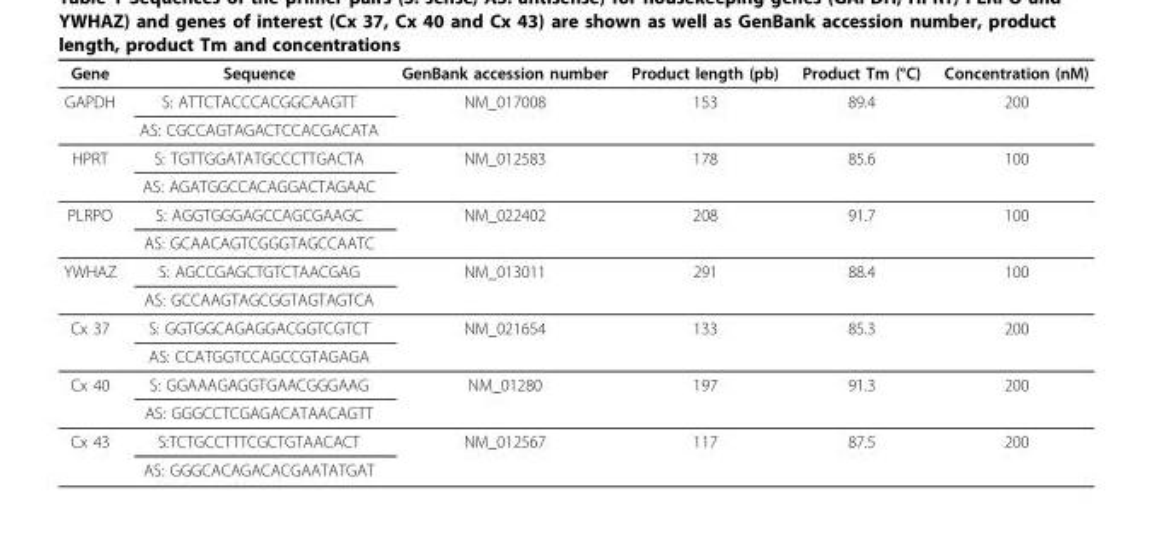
<table><thead><tr><td>Gene</td><td>Sequence</td><td>GenBank accession number</td><td>Product length (pb)</td><td>Product Tm (°C)</td><td>Concentration (nM)</td></tr></thead><tbody><tr><td rowspan="2">GAPDH</td><td>S: ATTCTACCCACGGCAAGTT</td><td>NM_017008</td><td>153</td><td>89.4</td><td>200</td></tr><tr><td>AS: CGCCAGTAGACTCCACGACATA</td><td></td><td></td><td></td><td></td></tr><tr><td rowspan="2">HPRT</td><td>S: TGTTGGATATGCCCTTGACTA</td><td>NM_012583</td><td>178</td><td>85.6</td><td>100</td></tr><tr><td>AS: AGATGGCCACAGGACTAGAAC</td><td></td><td></td><td></td><td></td></tr><tr><td rowspan="2">PLRPO</td><td>S: AGGTGGGAGCCAGCGAAGC</td><td>NM_022402</td><td>208</td><td>91.7</td><td>100</td></tr><tr><td>AS: GCAACAGTCGGGTAGCCAATC</td><td></td><td></td><td></td><td></td></tr><tr><td rowspan="2">YWHAZ</td><td>S: AGCCGAGCTGTCTAACGAG</td><td>NM_013011</td><td>291</td><td>88.4</td><td>100</td></tr><tr><td>AS: GCCAAGTAGCGGTAGTAGTCA</td><td></td><td></td><td></td><td></td></tr><tr><td rowspan="2">Cx 37</td><td>S: GGTGGCAGAGGACGGTCGTCT</td><td>NM_021654</td><td>133</td><td>85.3</td><td>200</td></tr><tr><td>AS: CCATGGTCCAGCCGTAGAGA</td><td></td><td></td><td></td><td></td></tr><tr><td rowspan="2">Cx 40</td><td>S: GGAAAGAGGTGAACGGGAAG</td><td>NM_01280</td><td>197</td><td>91.3</td><td>200</td></tr><tr><td>AS: GGGCCTCGAGACATAACAGTT</td><td></td><td></td><td></td><td></td></tr><tr><td rowspan="2">Cx 43</td><td>S:TCTGCCTTTCGCTGTAACACT</td><td>NM_012567</td><td>117</td><td>87.5</td><td>200</td></tr><tr><td>AS: GGGCACAGACACGAATATGAT</td><td></td><td></td><td></td><td></td></tr></tbody></table>